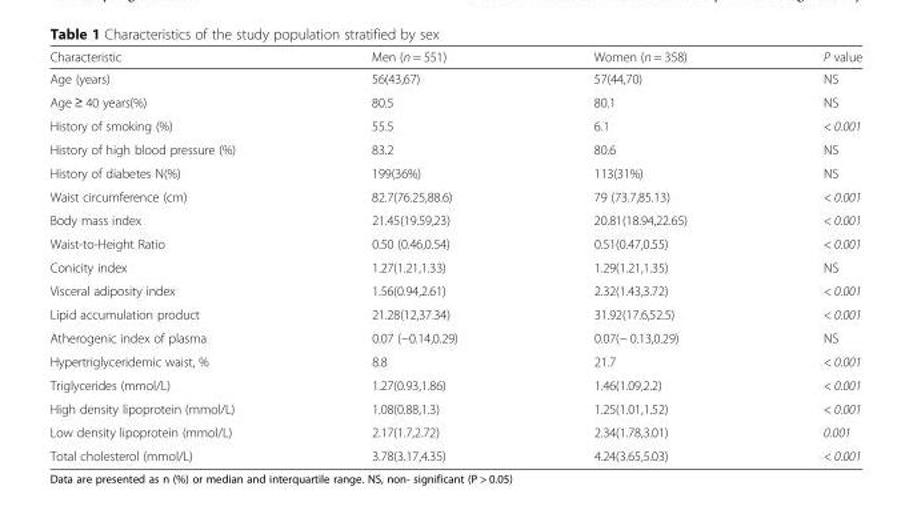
<table><thead><tr><td>Characteristic</td><td>Men (n = 551)</td><td>Women (n = 358)</td><td>P value</td></tr></thead><tbody><tr><td>Age (years)</td><td>56(43,67)</td><td>57(44,70)</td><td>NS</td></tr><tr><td>Age ≥ 40 years(%)</td><td>80.5</td><td>80.1</td><td>NS</td></tr><tr><td>History of smoking (%)</td><td>55.5</td><td>6.1</td><td>&lt; 0.001</td></tr><tr><td>History of high blood pressure (%)</td><td>83.2</td><td>80.6</td><td>NS</td></tr><tr><td>History of diabetes N(%)</td><td>199(36%)</td><td>113(31%)</td><td>NS</td></tr><tr><td>Waist circumference (cm)</td><td>82.7(76.25,88.6)</td><td>79 (73.7,85.13)</td><td>&lt; 0.001</td></tr><tr><td>Body mass index</td><td>21.45(19.59,23)</td><td>20.81(18.94,22.65)</td><td>&lt; 0.001</td></tr><tr><td>Waist-to-Height Ratio</td><td>0.50 (0.46,0.54)</td><td>0.51(0.47,0.55)</td><td>&lt; 0.001</td></tr><tr><td>Conicity index</td><td>1.27(1.21,1.33)</td><td>1.29(1.21,1.35)</td><td>NS</td></tr><tr><td>Visceral adiposity index</td><td>1.56(0.94,2.61)</td><td>2.32(1.43,3.72)</td><td>&lt; 0.001</td></tr><tr><td>Lipid accumulation product</td><td>21.28(12,37.34)</td><td>31.92(17.6,52.5)</td><td>&lt; 0.001</td></tr><tr><td>Atherogenic index of plasma</td><td>0.07 (−0.14,0.29)</td><td>0.07(− 0.13,0.29)</td><td>NS</td></tr><tr><td>Hypertriglyceridemic waist, %</td><td>8.8</td><td>21.7</td><td>&lt; 0.001</td></tr><tr><td>Triglycerides (mmol/L)</td><td>1.27(0.93,1.86)</td><td>1.46(1.09,2.2)</td><td>&lt; 0.001</td></tr><tr><td>High density lipoprotein (mmol/L)</td><td>1.08(0.88,1.3)</td><td>1.25(1.01,1.52)</td><td>&lt; 0.001</td></tr><tr><td>Low density lipoprotein (mmol/L)</td><td>2.17(1.7,2.72)</td><td>2.34(1.78,3.01)</td><td>0.001</td></tr><tr><td>Total cholesterol (mmol/L)</td><td>3.78(3.17,4.35)</td><td>4.24(3.65,5.03)</td><td>&lt; 0.001</td></tr></tbody></table>